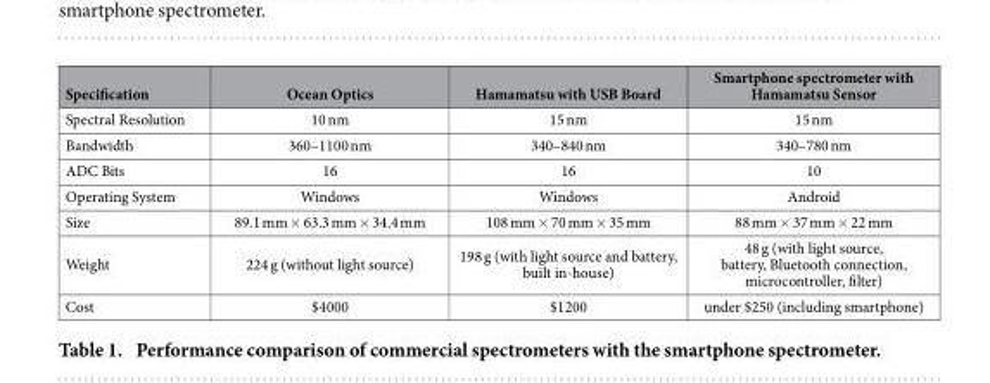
<table><thead><tr><td>Specification</td><td>Ocean Optics</td><td>Hamamatsu with USB Board</td><td>Smartphone spectrometer with Hamamatsu Sensor</td></tr></thead><tbody><tr><td>Spectral Resolution</td><td>10 nm</td><td>15 nm</td><td>15 nm</td></tr><tr><td>Bandwidth</td><td>360–1100 nm</td><td>340–840 nm</td><td>340–780 nm</td></tr><tr><td>ADC Bits</td><td>16</td><td>16</td><td>10</td></tr><tr><td>Operating System</td><td>Windows</td><td>Windows</td><td>Android</td></tr><tr><td>Size</td><td>89.1 mm × 63.3 mm × 34.4 mm</td><td>108 mm × 70 mm × 35 mm</td><td>88 mm × 37 mm × 22 mm</td></tr><tr><td>Weight</td><td>224 g (without light source)</td><td>198 g (with light source and battery, built in-house)</td><td>48 g (with light source, battery, Bluetooth connection, microcontroller, filter)</td></tr><tr><td>Cost</td><td>$4000</td><td>$1200</td><td>under $250 (including smartphone)</td></tr></tbody></table>